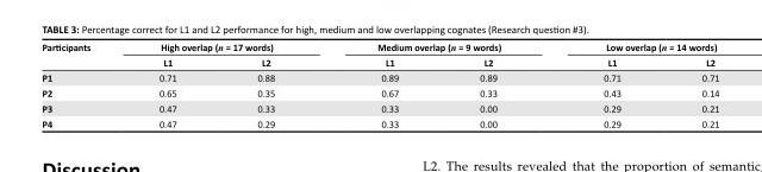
<table><thead><tr><td rowspan="2">Participants</td><td colspan="2">High overlap (n = 17 words)</td><td colspan="2">Medium overlap (n = 9 words)</td><td colspan="2">Low overlap (n = 14 words)</td></tr><tr><td>L1</td><td>L2</td><td>L1</td><td>L2</td><td>L1</td><td>L2</td></tr></thead><tbody><tr><td>P1</td><td>0.71</td><td>0.88</td><td>0.89</td><td>0.89</td><td>0.71</td><td>0.71</td></tr><tr><td>P2</td><td>0.65</td><td>0.35</td><td>0.67</td><td>0.33</td><td>0.43</td><td>0.14</td></tr><tr><td>P3</td><td>0.47</td><td>0.33</td><td>0.33</td><td>0.00</td><td>0.29</td><td>0.21</td></tr><tr><td>P4</td><td>0.47</td><td>0.29</td><td>0.33</td><td>0.00</td><td>0.29</td><td>0.21</td></tr></tbody></table>